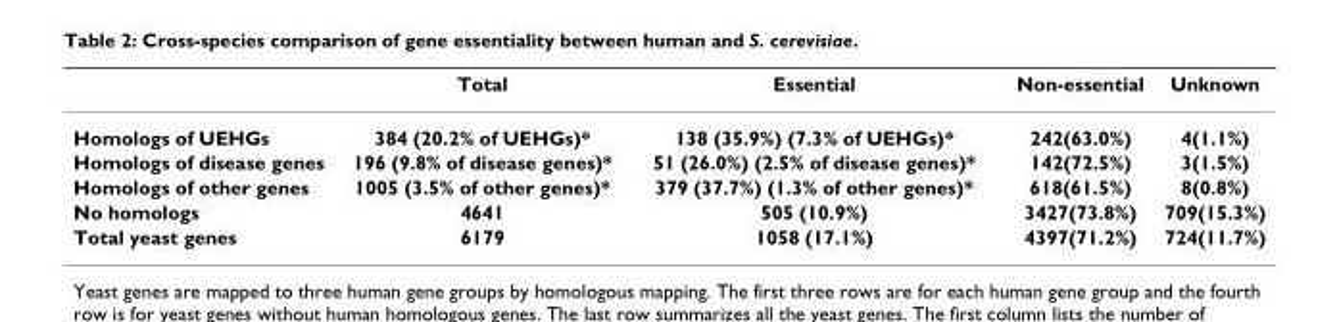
<table><thead><tr><td></td><td>Total</td><td>Essential</td><td>Non-essential</td><td>Unknown</td></tr></thead><tbody><tr><td>Homologs of UEHGs</td><td>384 (20.2% of UEHGs)*</td><td>138 (35.9%) (7.3% of UEHGs)*</td><td>242(63.0%)</td><td>4(1.1%)</td></tr><tr><td>Homologs of disease genes</td><td>196 (9.8% of disease genes)*</td><td>51 (26.0%) (2.5% of disease genes)*</td><td>142(72.5%)</td><td>3(1.5%)</td></tr><tr><td>Homologs of other genes</td><td>1005 (3.5% of other genes)*</td><td>379 (37.7%) (1.3% of other genes)*</td><td>618(61.5%)</td><td>8(0.8%)</td></tr><tr><td>No homologs</td><td>4641</td><td>505 (10.9%)</td><td>3427(73.8%)</td><td>709(15.3%)</td></tr><tr><td>Total yeast genes</td><td>6179</td><td>1058 (17.1%)</td><td>4397(71.2%)</td><td>724(11.7%)</td></tr></tbody></table>